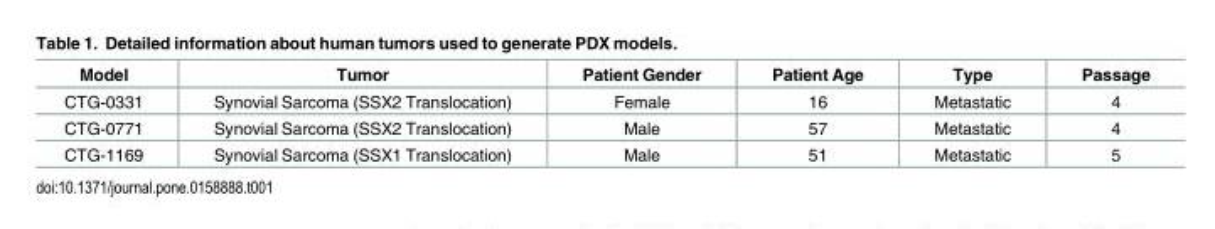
<table><thead><tr><td>Model</td><td>Tumor</td><td>Patient Gender</td><td>Patient Age</td><td>Type</td><td>Passage</td></tr></thead><tbody><tr><td>CTG-0331</td><td>Synovial Sarcoma (SSX2 Translocation)</td><td>Female</td><td>16</td><td>Metastatic</td><td>4</td></tr><tr><td>CTG-0771</td><td>Synovial Sarcoma (SSX2 Translocation)</td><td>Male</td><td>57</td><td>Metastatic</td><td>4</td></tr><tr><td>CTG-1169</td><td>Synovial Sarcoma (SSX1 Translocation)</td><td>Male</td><td>51</td><td>Metastatic</td><td>5</td></tr></tbody></table>